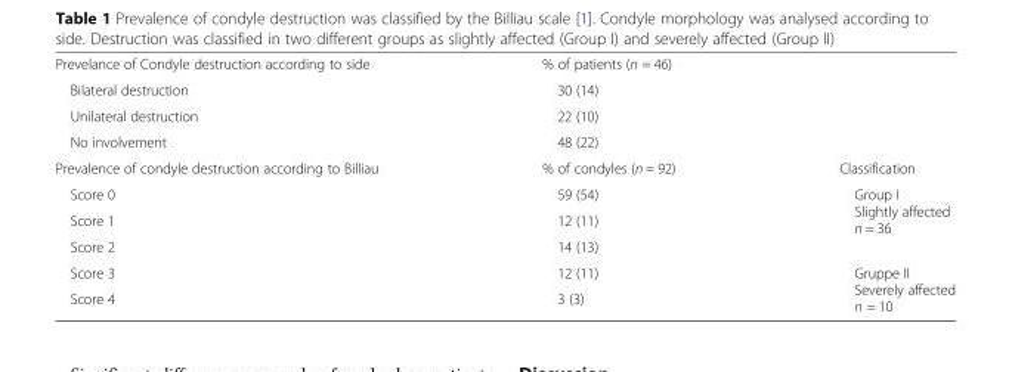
<table><tbody><tr><td>Prevelance of Condyle destruction according to side</td><td>% of patients (n = 46)</td><td></td></tr><tr><td>Bilateral destruction</td><td>30 (14)</td><td></td></tr><tr><td>Unilateral destruction</td><td>22 (10)</td><td></td></tr><tr><td>No involvement</td><td>48 (22)</td><td></td></tr><tr><td>Prevalence of condyle destruction according to Billiau</td><td>% of condyles (n = 92)</td><td>Classification</td></tr><tr><td>Score 0</td><td>59 (54)</td><td rowspan="3">Group I Slightly affected n = 36</td></tr><tr><td>Score 1</td><td>12 (11)</td></tr><tr><td>Score 2</td><td>14 (13)</td></tr><tr><td>Score 3</td><td>12 (11)</td><td rowspan="2">Gruppe II Severely affected n = 10</td></tr><tr><td>Score 4</td><td>3 (3)</td></tr></tbody></table>